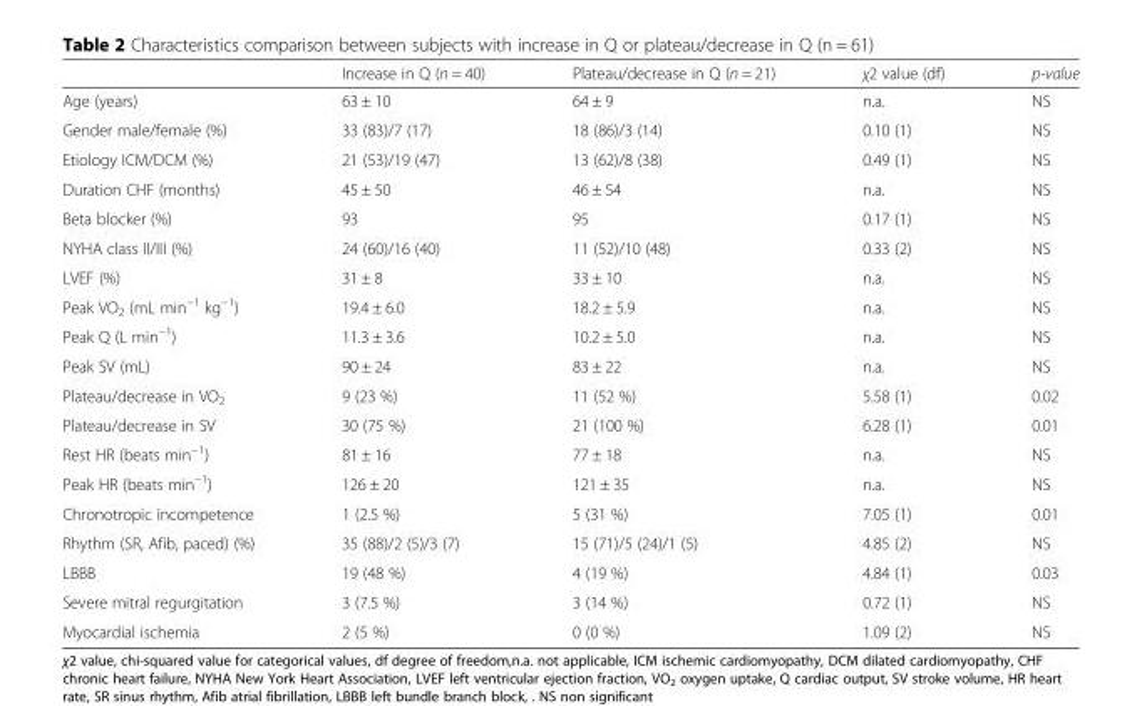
<table><thead><tr><td></td><td>Increase in Q (n = 40)</td><td>Plateau/decrease in Q (n = 21)</td><td>χ2 value (df)</td><td>p-value</td></tr></thead><tbody><tr><td>Age (years)</td><td>63 ± 10</td><td>64 ± 9</td><td>n.a.</td><td>NS</td></tr><tr><td>Gender male/female (%)</td><td>33 (83)/7 (17)</td><td>18 (86)/3 (14)</td><td>0.10 (1)</td><td>NS</td></tr><tr><td>Etiology ICM/DCM (%)</td><td>21 (53)/19 (47)</td><td>13 (62)/8 (38)</td><td>0.49 (1)</td><td>NS</td></tr><tr><td>Duration CHF (months)</td><td>45 ± 50</td><td>46 ± 54</td><td>n.a.</td><td>NS</td></tr><tr><td>Beta blocker (%)</td><td>93</td><td>95</td><td>0.17 (1)</td><td>NS</td></tr><tr><td>NYHA class II/III (%)</td><td>24 (60)/16 (40)</td><td>11 (52)/10 (48)</td><td>0.33 (2)</td><td>NS</td></tr><tr><td>LVEF (%)</td><td>31 ± 8</td><td>33 ± 10</td><td>n.a.</td><td>NS</td></tr><tr><td>Peak VO<sub>2</sub> (mL min<sup>−1</sup> kg<sup>−1</sup>)</td><td>19.4 ± 6.0</td><td>18.2 ± 5.9</td><td>n.a.</td><td>NS</td></tr><tr><td>Peak Q (L min<sup>−1</sup>)</td><td>11.3 ± 3.6</td><td>10.2 ± 5.0</td><td>n.a.</td><td>NS</td></tr><tr><td>Peak SV (mL)</td><td>90 ± 24</td><td>83 ± 22</td><td>n.a.</td><td>NS</td></tr><tr><td>Plateau/decrease in VO<sub>2</sub></td><td>9 (23 %)</td><td>11 (52 %)</td><td>5.58 (1)</td><td>0.02</td></tr><tr><td>Plateau/decrease in SV</td><td>30 (75 %)</td><td>21 (100 %)</td><td>6.28 (1)</td><td>0.01</td></tr><tr><td>Rest HR (beats min<sup>−1</sup>)</td><td>81 ± 16</td><td>77 ± 18</td><td>n.a.</td><td>NS</td></tr><tr><td>Peak HR (beats min<sup>−1</sup>)</td><td>126 ± 20</td><td>121 ± 35</td><td>n.a.</td><td>NS</td></tr><tr><td>Chronotropic incompetence</td><td>1 (2.5 %)</td><td>5 (31 %)</td><td>7.05 (1)</td><td>0.01</td></tr><tr><td>Rhythm (SR, Afib, paced) (%)</td><td>35 (88)/2 (5)/3 (7)</td><td>15 (71)/5 (24)/1 (5)</td><td>4.85 (2)</td><td>NS</td></tr><tr><td>LBBB</td><td>19 (48 %)</td><td>4 (19 %)</td><td>4.84 (1)</td><td>0.03</td></tr><tr><td>Severe mitral regurgitation</td><td>3 (7.5 %)</td><td>3 (14 %)</td><td>0.72 (1)</td><td>NS</td></tr><tr><td>Myocardial ischemia</td><td>2 (5 %)</td><td>0 (0 %)</td><td>1.09 (2)</td><td>NS</td></tr></tbody></table>